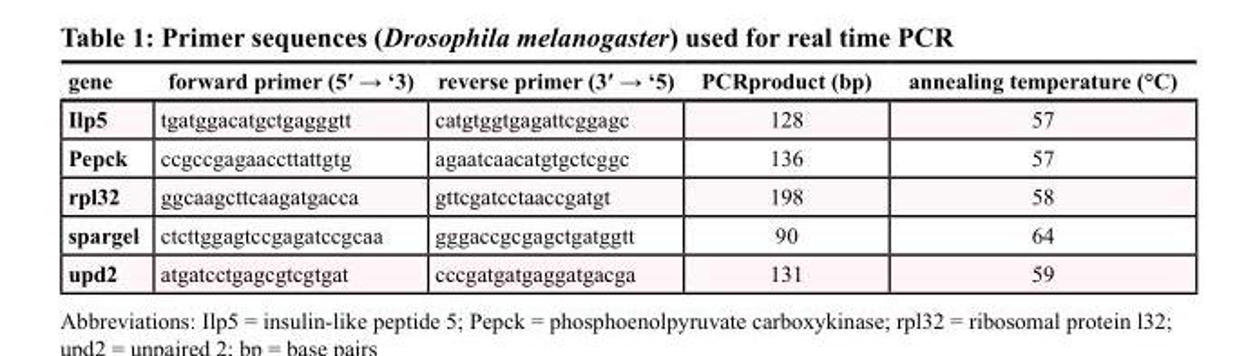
<table><thead><tr><td>gene</td><td>forward primer (5′ → ‘3)</td><td>reverse primer (3′ → ‘5)</td><td>PCRproduct (bp)</td><td>annealing temperature (°C)</td></tr></thead><tbody><tr><td>Ilp5</td><td>tgatggacatgctgagggtt</td><td>catgtggtgagattcggagc</td><td>128</td><td>57</td></tr><tr><td>Pepck</td><td>ccgccgagaaccttattgtg</td><td>agaatcaacatgtgctcggc</td><td>136</td><td>57</td></tr><tr><td>rpl32</td><td>ggcaagcttcaagatgacca</td><td>gttcgatcctaaccgatgt</td><td>198</td><td>58</td></tr><tr><td>spargel</td><td>ctcttggagtccgagatccgcaa</td><td>gggaccgcgagctgatggtt</td><td>90</td><td>64</td></tr><tr><td>upd2</td><td>atgatcctgagcgtcgtgat</td><td>cccgatgatgaggatgacga</td><td>131</td><td>59</td></tr></tbody></table>